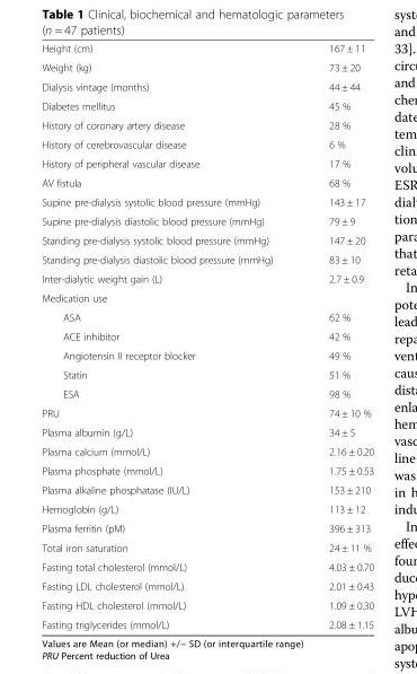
<table><tbody><tr><td>Height (cm)</td><td>167 ± 11</td></tr><tr><td>Weight (kg)</td><td>73 ± 20</td></tr><tr><td>Dialysis vintage (months)</td><td>44 ± 44</td></tr><tr><td>Diabetes mellitus</td><td>45 %</td></tr><tr><td>History of coronary artery disease</td><td>28 %</td></tr><tr><td>History of cerebrovascular disease</td><td>6 %</td></tr><tr><td>History of peripheral vascular disease</td><td>17 %</td></tr><tr><td>AV fistula</td><td>68 %</td></tr><tr><td>Supine pre-dialysis systolic blood pressure (mmHg)</td><td>143 ± 17</td></tr><tr><td>Supine pre-dialysis diastolic blood pressure (mmHg)</td><td>79 ± 9</td></tr><tr><td>Standing pre-dialysis systolic blood pressure (mmHg)</td><td>147 ± 20</td></tr><tr><td>Standing pre-dialysis diastolic blood pressure (mmHg)</td><td>83 ± 10</td></tr><tr><td>Inter-dialytic weight gain (L)</td><td>2.7 ± 0.9</td></tr><tr><td colspan="2">Medication use</td></tr><tr><td>ASA</td><td>62 %</td></tr><tr><td>ACE inhibitor</td><td>42 %</td></tr><tr><td>Angiotensin II receptor blocker</td><td>49 %</td></tr><tr><td>Statin</td><td>51 %</td></tr><tr><td>ESA</td><td>98 %</td></tr><tr><td>PRU</td><td>74 ± 10 %</td></tr><tr><td>Plasma albumin (g/L)</td><td>34 ± 5</td></tr><tr><td>Plasma calcium (mmol/L)</td><td>2.16 ± 0.20</td></tr><tr><td>Plasma phosphate (mmol/L)</td><td>1.75 ± 0.53</td></tr><tr><td>Plasma alkaline phosphatase (IU/L)</td><td>153 ± 210</td></tr><tr><td>Hemoglobin (g/L)</td><td>113 ± 12</td></tr><tr><td>Plasma ferritin (pM)</td><td>396 ± 313</td></tr><tr><td>Total iron saturation</td><td>24 ± 11 %</td></tr><tr><td>Fasting total cholesterol (mmol/L)</td><td>4.03 ± 0.70</td></tr><tr><td>Fasting LDL cholesterol (mmol/L)</td><td>2.01 ± 0.43</td></tr><tr><td>Fasting HDL cholesterol (mmol/L)</td><td>1.09 ± 0.30</td></tr><tr><td>Fasting triglycerides (mmol/L)</td><td>2.08 ± 1.15</td></tr></tbody></table>